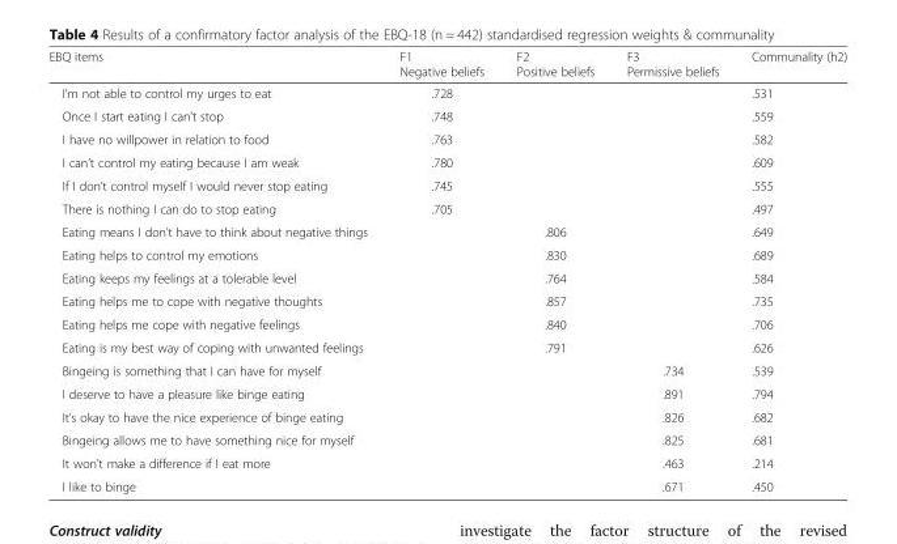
<table><thead><tr><td>EBQ items</td><td>F1 Negative beliefs</td><td>F2 Positive beliefs</td><td>F3 Permissive beliefs</td><td>Communality (h2)</td></tr></thead><tbody><tr><td>I’m not able to control my urges to eat</td><td>.728</td><td></td><td></td><td>.531</td></tr><tr><td>Once I start eating I can’t stop</td><td>.748</td><td></td><td></td><td>.559</td></tr><tr><td>I have no willpower in relation to food</td><td>.763</td><td></td><td></td><td>.582</td></tr><tr><td>I can’t control my eating because I am weak</td><td>.780</td><td></td><td></td><td>.609</td></tr><tr><td>If I don’t control myself I would never stop eating</td><td>.745</td><td></td><td></td><td>.555</td></tr><tr><td>There is nothing I can do to stop eating</td><td>.705</td><td></td><td></td><td>.497</td></tr><tr><td>Eating means I don’t have to think about negative things</td><td></td><td>.806</td><td></td><td>.649</td></tr><tr><td>Eating helps to control my emotions</td><td></td><td>.830</td><td></td><td>.689</td></tr><tr><td>Eating keeps my feelings at a tolerable level</td><td></td><td>.764</td><td></td><td>.584</td></tr><tr><td>Eating helps me to cope with negative thoughts</td><td></td><td>.857</td><td></td><td>.735</td></tr><tr><td>Eating helps me cope with negative feelings</td><td></td><td>.840</td><td></td><td>.706</td></tr><tr><td>Eating is my best way of coping with unwanted feelings</td><td></td><td>.791</td><td></td><td>.626</td></tr><tr><td>Bingeing is something that I can have for myself</td><td></td><td></td><td>.734</td><td>.539</td></tr><tr><td>I deserve to have a pleasure like binge eating</td><td></td><td></td><td>.891</td><td>.794</td></tr><tr><td>It’s okay to have the nice experience of binge eating</td><td></td><td></td><td>.826</td><td>.682</td></tr><tr><td>Bingeing allows me to have something nice for myself</td><td></td><td></td><td>.825</td><td>.681</td></tr><tr><td>It won’t make a difference if I eat more</td><td></td><td></td><td>.463</td><td>.214</td></tr><tr><td>I like to binge</td><td></td><td></td><td>.671</td><td>.450</td></tr></tbody></table>